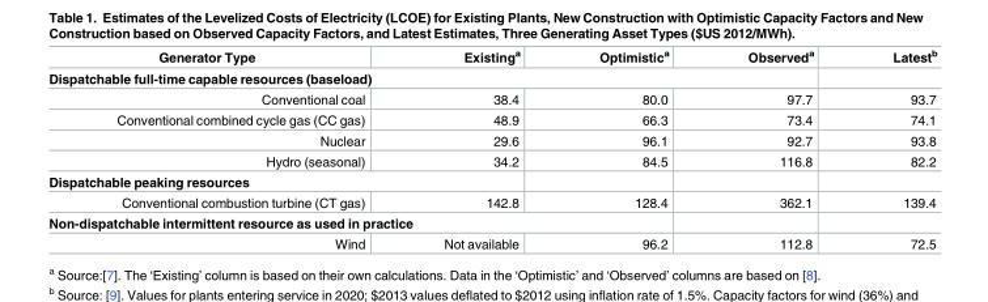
<table><thead><tr><td>Generator Type</td><td>Existing<sup>a</sup></td><td>Optimistic<sup>a</sup></td><td>Observed<sup>a</sup></td><td>Latest<sup>b</sup></td></tr></thead><tbody><tr><td colspan="5">Dispatchable full-time capable resources (baseload)</td></tr><tr><td>Conventional coal</td><td>38.4</td><td>80.0</td><td>97.7</td><td>93.7</td></tr><tr><td>Conventional combined cycle gas (CC gas)</td><td>48.9</td><td>66.3</td><td>73.4</td><td>74.1</td></tr><tr><td>Nuclear</td><td>29.6</td><td>96.1</td><td>92.7</td><td>93.8</td></tr><tr><td>Hydro (seasonal)</td><td>34.2</td><td>84.5</td><td>116.8</td><td>82.2</td></tr><tr><td colspan="5">Dispatchable peaking resources</td></tr><tr><td>Conventional combustion turbine (CT gas)</td><td>142.8</td><td>128.4</td><td>362.1</td><td>139.4</td></tr><tr><td colspan="5">Non-dispatchable intermittent resource as used in practice</td></tr><tr><td>Wind</td><td>Not available</td><td>96.2</td><td>112.8</td><td>72.5</td></tr></tbody></table>